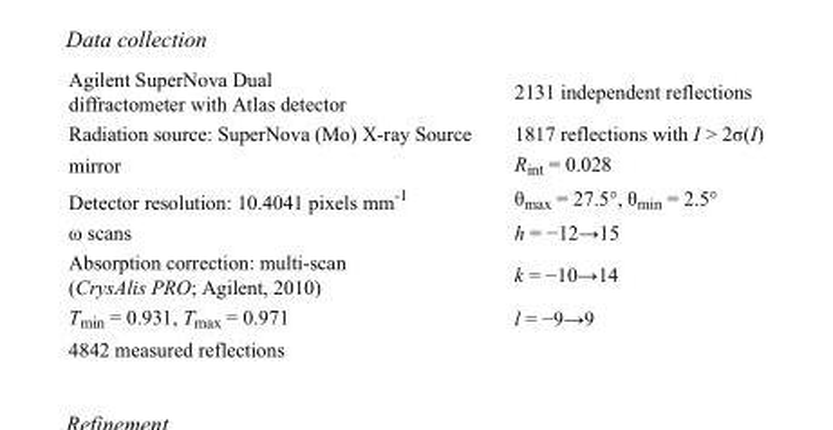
<table><tbody><tr><td>Agilent SuperNova Dual diffractometer with Atlas detector</td><td>2131 independent reflections</td></tr><tr><td>Radiation source: SuperNova (Mo) X-ray Source</td><td>1817 reflections with I &gt; 2σ(I)</td></tr><tr><td>mirror</td><td>R<sub>int</sub> = 0.028</td></tr><tr><td>Detector resolution: 10.4041 pixels mm<sup>-1</sup></td><td>θ<sub>max</sub> = 27.5°, θ<sub>min</sub> = 2.5°</td></tr><tr><td>ω scans</td><td>h = −12→15</td></tr><tr><td>Absorption correction: multi-scan (CrysAlis PRO; Agilent, 2010)</td><td>k = −10→14</td></tr><tr><td>T<sub>min</sub> = 0.931, T<sub>max</sub> = 0.971</td><td>l = −9→9</td></tr><tr><td>4842 measured reflections</td><td></td></tr></tbody></table>